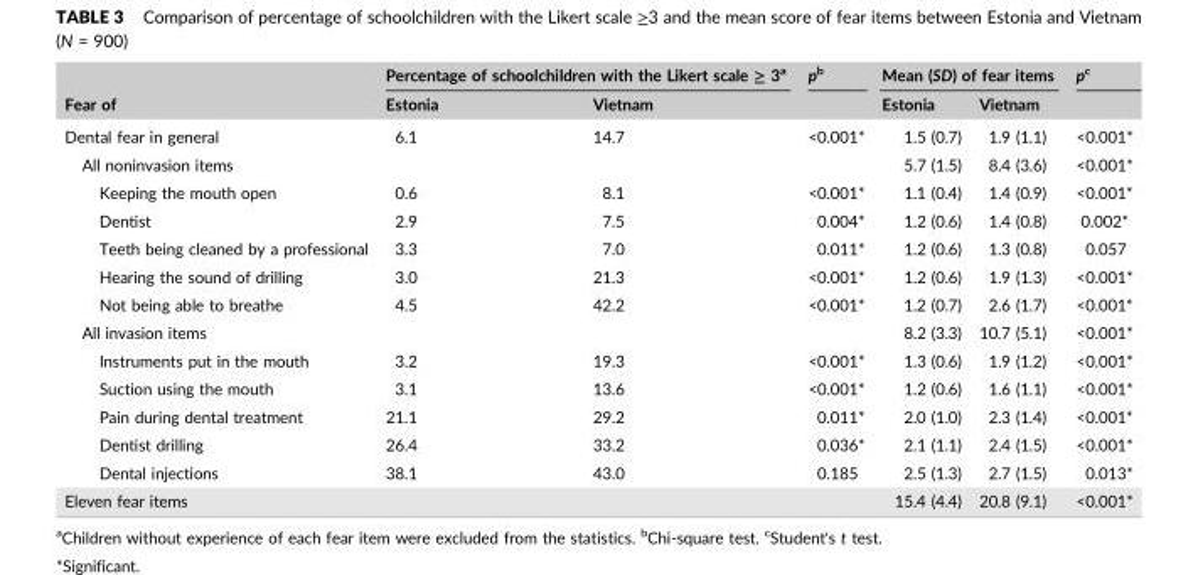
<table><thead><tr><td rowspan="2">Fear of</td><td colspan="2">Percentage of schoolchildren with the Likert scale ≥ 3<sup>a</sup></td><td rowspan="2">pb</td><td colspan="2">Mean (SD) of fear items</td><td rowspan="2">pc</td></tr><tr><td>Estonia</td><td>Vietnam</td><td>Estonia</td><td>Vietnam</td></tr></thead><tbody><tr><td>Dental fear in general</td><td>6.1</td><td>14.7</td><td>&lt;0.001*</td><td>1.5 (0.7)</td><td>1.9 (1.1)</td><td>&lt;0.001*</td></tr><tr><td>All noninvasion items</td><td></td><td></td><td></td><td>5.7 (1.5)</td><td>8.4 (3.6)</td><td>&lt;0.001*</td></tr><tr><td>Keeping the mouth open</td><td>0.6</td><td>8.1</td><td>&lt;0.001*</td><td>1.1 (0.4)</td><td>1.4 (0.9)</td><td>&lt;0.001*</td></tr><tr><td>Dentist</td><td>2.9</td><td>7.5</td><td>0.004*</td><td>1.2 (0.6)</td><td>1.4 (0.8)</td><td>0.002*</td></tr><tr><td>Teeth being cleaned by a professional</td><td>3.3</td><td>7.0</td><td>0.011*</td><td>1.2 (0.6)</td><td>1.3 (0.8)</td><td>0.057</td></tr><tr><td>Hearing the sound of drilling</td><td>3.0</td><td>21.3</td><td>&lt;0.001*</td><td>1.2 (0.6)</td><td>1.9 (1.3)</td><td>&lt;0.001*</td></tr><tr><td>Not being able to breathe</td><td>4.5</td><td>42.2</td><td>&lt;0.001*</td><td>1.2 (0.7)</td><td>2.6 (1.7)</td><td>&lt;0.001*</td></tr><tr><td>All invasion items</td><td></td><td></td><td></td><td>8.2 (3.3)</td><td>10.7 (5.1)</td><td>&lt;0.001*</td></tr><tr><td>Instruments put in the mouth</td><td>3.2</td><td>19.3</td><td>&lt;0.001*</td><td>1.3 (0.6)</td><td>1.9 (1.2)</td><td>&lt;0.001*</td></tr><tr><td>Suction using the mouth</td><td>3.1</td><td>13.6</td><td>&lt;0.001*</td><td>1.2 (0.6)</td><td>1.6 (1.1)</td><td>&lt;0.001*</td></tr><tr><td>Pain during dental treatment</td><td>21.1</td><td>29.2</td><td>0.011*</td><td>2.0 (1.0)</td><td>2.3 (1.4)</td><td>&lt;0.001*</td></tr><tr><td>Dentist drilling</td><td>26.4</td><td>33.2</td><td>0.036*</td><td>2.1 (1.1)</td><td>2.4 (1.5)</td><td>&lt;0.001*</td></tr><tr><td>Dental injections</td><td>38.1</td><td>43.0</td><td>0.185</td><td>2.5 (1.3)</td><td>2.7 (1.5)</td><td>0.013*</td></tr><tr><td>Eleven fear items</td><td></td><td></td><td></td><td>15.4 (4.4)</td><td>20.8 (9.1)</td><td>&lt;0.001*</td></tr></tbody></table>